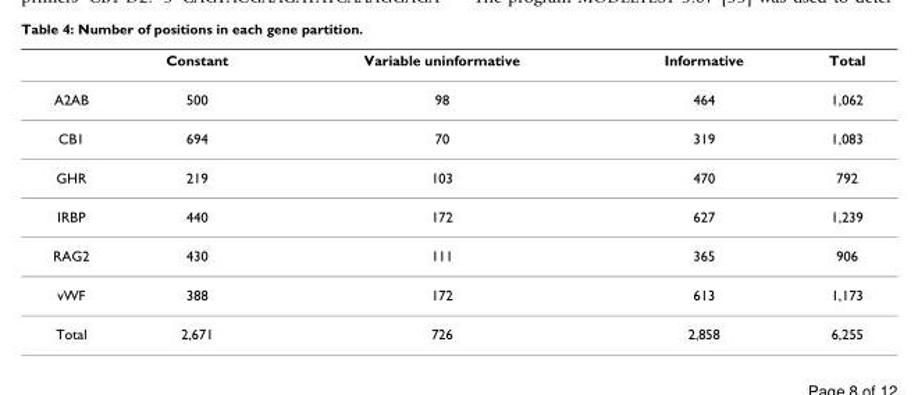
<table><thead><tr><td></td><td>Constant</td><td>Variable uninformative</td><td>Informative</td><td>Total</td></tr></thead><tbody><tr><td>A2AB</td><td>500</td><td>98</td><td>464</td><td>1,062</td></tr><tr><td>CB1</td><td>694</td><td>70</td><td>319</td><td>1,083</td></tr><tr><td>GHR</td><td>219</td><td>103</td><td>470</td><td>792</td></tr><tr><td>IRBP</td><td>440</td><td>172</td><td>627</td><td>1,239</td></tr><tr><td>RAG2</td><td>430</td><td>111</td><td>365</td><td>906</td></tr><tr><td>vWF</td><td>388</td><td>172</td><td>613</td><td>1,173</td></tr><tr><td>Total</td><td>2,671</td><td>726</td><td>2,858</td><td>6,255</td></tr></tbody></table>